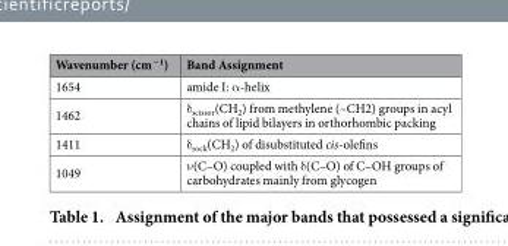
<table><thead><tr><td>Wavenumber (cm<sup>−1</sup>)</td><td>Band Assignment</td></tr></thead><tbody><tr><td>1654</td><td>amide I: α -helix</td></tr><tr><td>1462</td><td>δ <sub>scissor</sub>(CH<sub>2</sub>) from methylene (–CH2) groups in acyl chains of lipid bilayers in orthorhombic packing</td></tr><tr><td>1411</td><td>δ <sub>rock</sub>(CH<sub>2</sub>) of disubstituted cis-olefins</td></tr><tr><td>1049</td><td>ν (C–O) coupled with δ (C–O) of C–OH groups of carbohydrates mainly from glycogen</td></tr></tbody></table>